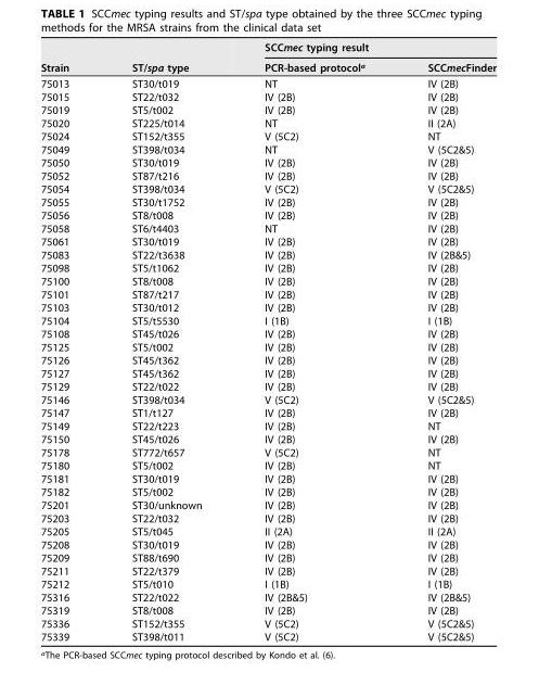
<table><thead><tr><td rowspan="2">Strain</td><td rowspan="2">ST/spa type</td><td colspan="2">SCCmec typing result</td></tr><tr><td>PCR-based protocol<sup>a</sup></td><td>SCCmecFinder</td></tr></thead><tbody><tr><td>75013</td><td>ST30/t019</td><td>NT</td><td>IV (2B)</td></tr><tr><td>75015</td><td>ST22/t032</td><td>IV (2B)</td><td>IV (2B)</td></tr><tr><td>75019</td><td>ST5/t002</td><td>IV (2B)</td><td>IV (2B)</td></tr><tr><td>75020</td><td>ST225/t014</td><td>NT</td><td>II (2A)</td></tr><tr><td>75024</td><td>ST152/t355</td><td>V (5C2)</td><td>NT</td></tr><tr><td>75049</td><td>ST398/t034</td><td>NT</td><td>V (5C2&amp;5)</td></tr><tr><td>75050</td><td>ST30/t019</td><td>IV (2B)</td><td>IV (2B)</td></tr><tr><td>75052</td><td>ST87/t216</td><td>IV (2B)</td><td>IV (2B)</td></tr><tr><td>75054</td><td>ST398/t034</td><td>V (5C2)</td><td>V (5C2&amp;5)</td></tr><tr><td>75055</td><td>ST30/t1752</td><td>IV (2B)</td><td>IV (2B)</td></tr><tr><td>75056</td><td>ST8/t008</td><td>IV (2B)</td><td>IV (2B)</td></tr><tr><td>75058</td><td>ST6/t4403</td><td>NT</td><td>IV (2B)</td></tr><tr><td>75061</td><td>ST30/t019</td><td>IV (2B)</td><td>IV (2B)</td></tr><tr><td>75083</td><td>ST22/t3638</td><td>IV (2B)</td><td>IV (2B&amp;5)</td></tr><tr><td>75098</td><td>ST5/t1062</td><td>IV (2B)</td><td>IV (2B)</td></tr><tr><td>75100</td><td>ST8/t008</td><td>IV (2B)</td><td>IV (2B)</td></tr><tr><td>75101</td><td>ST87/t217</td><td>IV (2B)</td><td>IV (2B)</td></tr><tr><td>75103</td><td>ST30/t012</td><td>IV (2B)</td><td>IV (2B)</td></tr><tr><td>75104</td><td>ST5/t5530</td><td>I (1B)</td><td>I (1B)</td></tr><tr><td>75108</td><td>ST45/t026</td><td>IV (2B)</td><td>IV (2B)</td></tr><tr><td>75125</td><td>ST5/t002</td><td>IV (2B)</td><td>IV (2B)</td></tr><tr><td>75126</td><td>ST45/t362</td><td>IV (2B)</td><td>IV (2B)</td></tr><tr><td>75127</td><td>ST45/t362</td><td>IV (2B)</td><td>IV (2B)</td></tr><tr><td>75129</td><td>ST22/t022</td><td>IV (2B)</td><td>IV (2B)</td></tr><tr><td>75146</td><td>ST398/t034</td><td>V (5C2)</td><td>V (5C2&amp;5)</td></tr><tr><td>75147</td><td>ST1/t127</td><td>IV (2B)</td><td>IV (2B)</td></tr><tr><td>75149</td><td>ST22/t223</td><td>IV (2B)</td><td>NT</td></tr><tr><td>75150</td><td>ST45/t026</td><td>IV (2B)</td><td>IV (2B)</td></tr><tr><td>75178</td><td>ST772/t657</td><td>V (5C2)</td><td>NT</td></tr><tr><td>75180</td><td>ST5/t002</td><td>IV (2B)</td><td>NT</td></tr><tr><td>75181</td><td>ST30/t019</td><td>IV (2B)</td><td>IV (2B)</td></tr><tr><td>75182</td><td>ST5/t002</td><td>IV (2B)</td><td>IV (2B)</td></tr><tr><td>75201</td><td>ST30/unknown</td><td>IV (2B)</td><td>IV (2B)</td></tr><tr><td>75203</td><td>ST22/t032</td><td>IV (2B)</td><td>IV (2B)</td></tr><tr><td>75205</td><td>ST5/t045</td><td>II (2A)</td><td>II (2A)</td></tr><tr><td>75208</td><td>ST30/t019</td><td>IV (2B)</td><td>IV (2B)</td></tr><tr><td>75209</td><td>ST88/t690</td><td>IV (2B)</td><td>IV (2B)</td></tr><tr><td>75211</td><td>ST22/t379</td><td>IV (2B)</td><td>IV (2B)</td></tr><tr><td>75212</td><td>ST5/t010</td><td>I (1B)</td><td>I (1B)</td></tr><tr><td>75316</td><td>ST22/t022</td><td>IV (2B&amp;5)</td><td>IV (2B&amp;5)</td></tr><tr><td>75319</td><td>ST8/t008</td><td>IV (2B)</td><td>IV (2B)</td></tr><tr><td>75336</td><td>ST152/t355</td><td>V (5C2)</td><td>V (5C2&amp;5)</td></tr><tr><td>75339</td><td>ST398/t011</td><td>V (5C2)</td><td>V (5C2&amp;5)</td></tr></tbody></table>